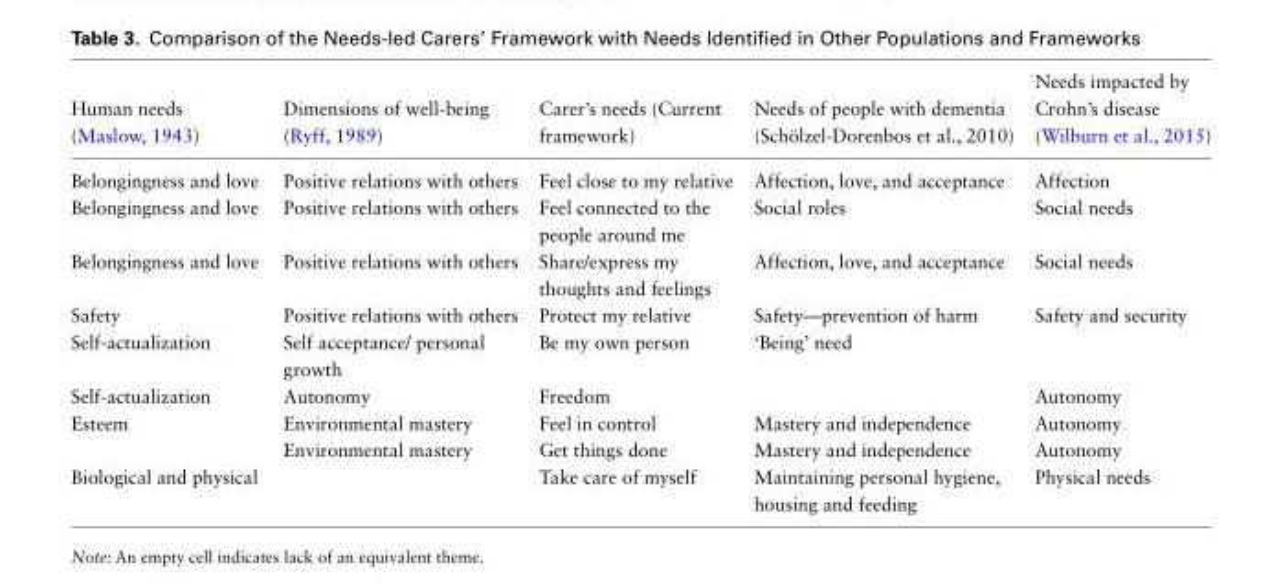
<table><thead><tr><td>Human needs (Maslow, 1943)</td><td>Dimensions of well-being (Ryff, 1989)</td><td>Carer’s needs (Current framework)</td><td>Needs of people with dementia (Schölzel-Dorenbos et al., 2010)</td><td>Needs impacted by Crohn’s disease (Wilburn et al., 2015)</td></tr></thead><tbody><tr><td>Belongingness and love</td><td>Positive relations with others</td><td>Feel close to my relative</td><td>Affection, love, and acceptance</td><td>Affection</td></tr><tr><td>Belongingness and love</td><td>Positive relations with others</td><td>Feel connected to the people around me</td><td>Social roles</td><td>Social needs</td></tr><tr><td>Belongingness and love</td><td>Positive relations with others</td><td>Share/express my thoughts and feelings</td><td>Affection, love, and acceptance</td><td>Social needs</td></tr><tr><td>Safety</td><td>Positive relations with others</td><td>Protect my relative</td><td>Safety—prevention of harm</td><td>Safety and security</td></tr><tr><td>Self-actualization</td><td>Self acceptance/ personal growth</td><td>Be my own person</td><td>‘Being’ need</td><td></td></tr><tr><td>Self-actualization</td><td>Autonomy</td><td>Freedom</td><td></td><td>Autonomy</td></tr><tr><td rowspan="2">Esteem</td><td>Environmental mastery</td><td>Feel in control</td><td>Mastery and independence</td><td>Autonomy</td></tr><tr><td>Environmental mastery</td><td>Get things done</td><td>Mastery and independence</td><td>Autonomy</td></tr><tr><td>Biological and physical</td><td></td><td>Take care of myself</td><td>Maintaining personal hygiene, housing and feeding</td><td>Physical needs</td></tr></tbody></table>